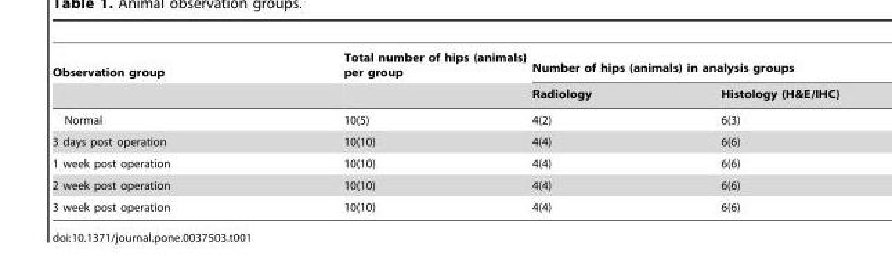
<table><thead><tr><td rowspan="2">Observation group</td><td rowspan="2">Total number of hips (animals) per group</td><td colspan="2">Number of hips (animals) in analysis groups</td></tr><tr><td>Radiology</td><td>Histology (H&amp;E/IHC)</td></tr></thead><tbody><tr><td>Normal</td><td>10(5)</td><td>4(2)</td><td>6(3)</td></tr><tr><td>3 days post operation</td><td>10(10)</td><td>4(4)</td><td>6(6)</td></tr><tr><td>1 week post operation</td><td>10(10)</td><td>4(4)</td><td>6(6)</td></tr><tr><td>2 week post operation</td><td>10(10)</td><td>4(4)</td><td>6(6)</td></tr><tr><td>3 week post operation</td><td>10(10)</td><td>4(4)</td><td>6(6)</td></tr></tbody></table>